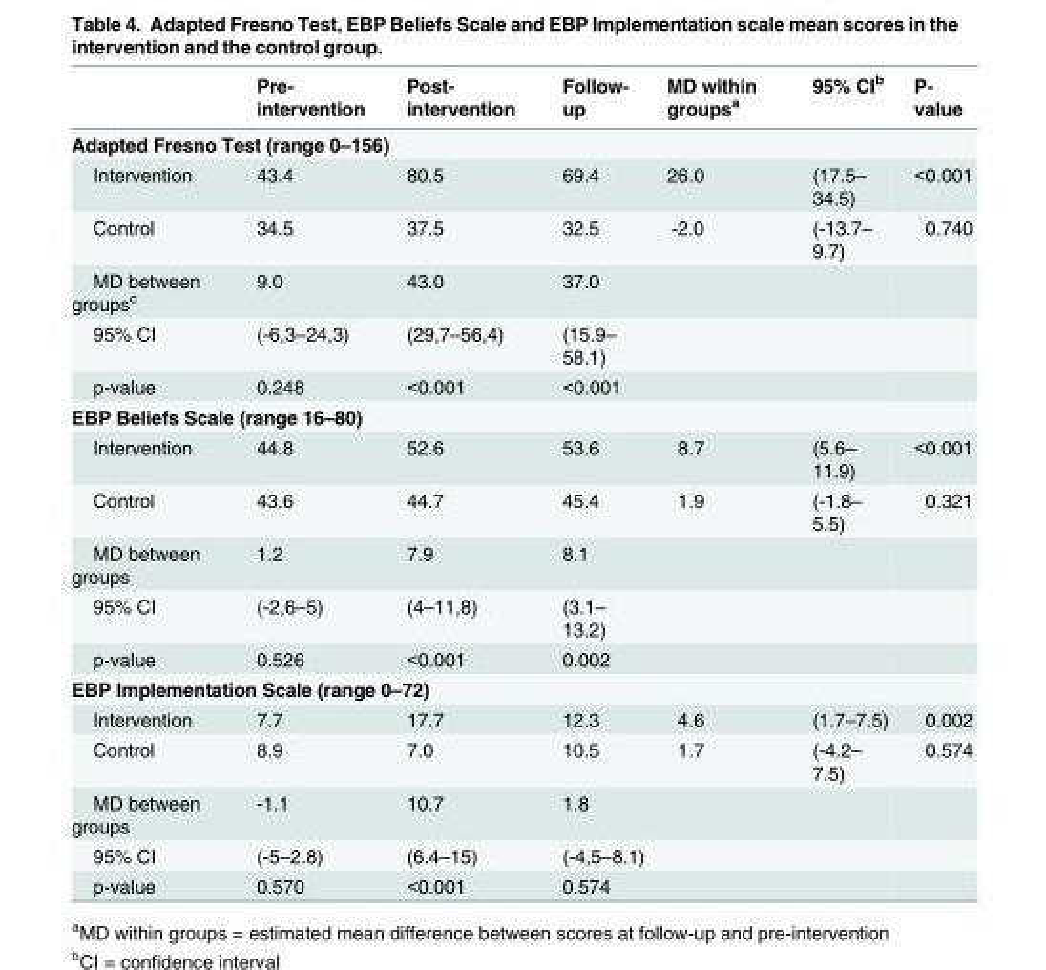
<table><thead><tr><td></td><td>Pre- intervention</td><td>Post- intervention</td><td>Follow- up</td><td>MD within groups<sup>a</sup></td><td>95% CI<sup>b</sup></td><td>P- value</td></tr></thead><tbody><tr><td colspan="7">Adapted Fresno Test (range 0–156)</td></tr><tr><td>Intervention</td><td>43.4</td><td>80.5</td><td>69.4</td><td>26.0</td><td>(17.5– 34.5)</td><td>&lt;0.001</td></tr><tr><td>Control</td><td>34.5</td><td>37.5</td><td>32.5</td><td>-2.0</td><td>(-13.7– 9.7)</td><td>0.740</td></tr><tr><td>MD between groups<sup>c</sup></td><td>9.0</td><td>43.0</td><td>37.0</td><td></td><td></td><td></td></tr><tr><td>95% CI</td><td>(-6,3–24,3)</td><td>(29,7–56,4)</td><td>(15.9– 58.1)</td><td></td><td></td><td></td></tr><tr><td>p-value</td><td>0.248</td><td>&lt;0.001</td><td>&lt;0.001</td><td></td><td></td><td></td></tr><tr><td colspan="7">EBP Beliefs Scale (range 16–80)</td></tr><tr><td>Intervention</td><td>44.8</td><td>52.6</td><td>53.6</td><td>8.7</td><td>(5.6– 11.9)</td><td>&lt;0.001</td></tr><tr><td>Control</td><td>43.6</td><td>44.7</td><td>45.4</td><td>1.9</td><td>(-1.8– 5.5)</td><td>0.321</td></tr><tr><td>MD between groups</td><td>1.2</td><td>7.9</td><td>8.1</td><td></td><td></td><td></td></tr><tr><td>95% CI</td><td>(-2,6–5)</td><td>(4–11,8)</td><td>(3.1– 13.2)</td><td></td><td></td><td></td></tr><tr><td>p-value</td><td>0.526</td><td>&lt;0.001</td><td>0.002</td><td></td><td></td><td></td></tr><tr><td colspan="7">EBP Implementation Scale (range 0–72)</td></tr><tr><td>Intervention</td><td>7.7</td><td>17.7</td><td>12.3</td><td>4.6</td><td>(1.7–7.5)</td><td>0.002</td></tr><tr><td>Control</td><td>8.9</td><td>7.0</td><td>10.5</td><td>1.7</td><td>(-4.2– 7.5)</td><td>0.574</td></tr><tr><td>MD between groups</td><td>-1.1</td><td>10.7</td><td>1.8</td><td></td><td></td><td></td></tr><tr><td>95% CI</td><td>(-5–2.8)</td><td>(6.4–15)</td><td>(-4,5–8.1)</td><td></td><td></td><td></td></tr><tr><td>p-value</td><td>0.570</td><td>&lt;0.001</td><td>0.574</td><td></td><td></td><td></td></tr></tbody></table>